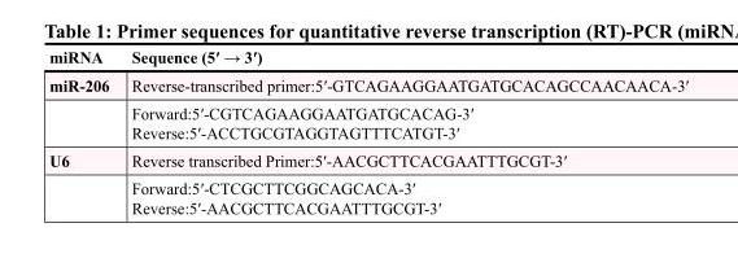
<table><thead><tr><td>miRNA</td><td>Sequence (5′ → 3′)</td></tr></thead><tbody><tr><td rowspan="2">miR-206</td><td>Reverse-transcribed primer:5′-GTCAGAAGGAATGATGCACAGCCAACAACA-3′</td></tr><tr><td>Forward:5′-CGTCAGAAGGAATGATGCACAG-3′ Reverse:5′-ACCTGCGTAGGTAGTTTCATGT-3′</td></tr><tr><td rowspan="2">U6</td><td>Reverse transcribed Primer:5′-AACGCTTCACGAATTTGCGT-3′</td></tr><tr><td>Forward:5′-CTCGCTTCGGCAGCACA-3′ Reverse:5′-AACGCTTCACGAATTTGCGT-3′</td></tr></tbody></table>